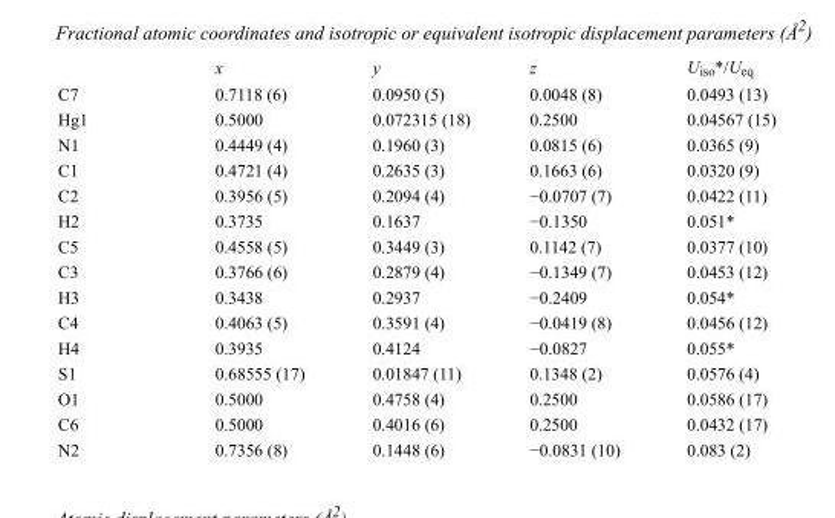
<table><thead><tr><td></td><td>x</td><td>y</td><td>z</td><td>U<sub>iso</sub>*/U<sub>eq</sub></td></tr></thead><tbody><tr><td>C7</td><td>0.7118 (6)</td><td>0.0950 (5)</td><td>0.0048 (8)</td><td>0.0493 (13)</td></tr><tr><td>Hg1</td><td>0.5000</td><td>0.072315 (18)</td><td>0.2500</td><td>0.04567 (15)</td></tr><tr><td>N1</td><td>0.4449 (4)</td><td>0.1960 (3)</td><td>0.0815 (6)</td><td>0.0365 (9)</td></tr><tr><td>C1</td><td>0.4721 (4)</td><td>0.2635 (3)</td><td>0.1663 (6)</td><td>0.0320 (9)</td></tr><tr><td>C2</td><td>0.3956 (5)</td><td>0.2094 (4)</td><td>−0.0707 (7)</td><td>0.0422 (11)</td></tr><tr><td>H2</td><td>0.3735</td><td>0.1637</td><td>−0.1350</td><td>0.051*</td></tr><tr><td>C5</td><td>0.4558 (5)</td><td>0.3449 (3)</td><td>0.1142 (7)</td><td>0.0377 (10)</td></tr><tr><td>C3</td><td>0.3766 (6)</td><td>0.2879 (4)</td><td>−0.1349 (7)</td><td>0.0453 (12)</td></tr><tr><td>H3</td><td>0.3438</td><td>0.2937</td><td>−0.2409</td><td>0.054*</td></tr><tr><td>C4</td><td>0.4063 (5)</td><td>0.3591 (4)</td><td>−0.0419 (8)</td><td>0.0456 (12)</td></tr><tr><td>H4</td><td>0.3935</td><td>0.4124</td><td>−0.0827</td><td>0.055*</td></tr><tr><td>S1</td><td>0.68555 (17)</td><td>0.01847 (11)</td><td>0.1348 (2)</td><td>0.0576 (4)</td></tr><tr><td>O1</td><td>0.5000</td><td>0.4758 (4)</td><td>0.2500</td><td>0.0586 (17)</td></tr><tr><td>C6</td><td>0.5000</td><td>0.4016 (6)</td><td>0.2500</td><td>0.0432 (17)</td></tr><tr><td>N2</td><td>0.7356 (8)</td><td>0.1448 (6)</td><td>−0.0831 (10)</td><td>0.083 (2)</td></tr></tbody></table>